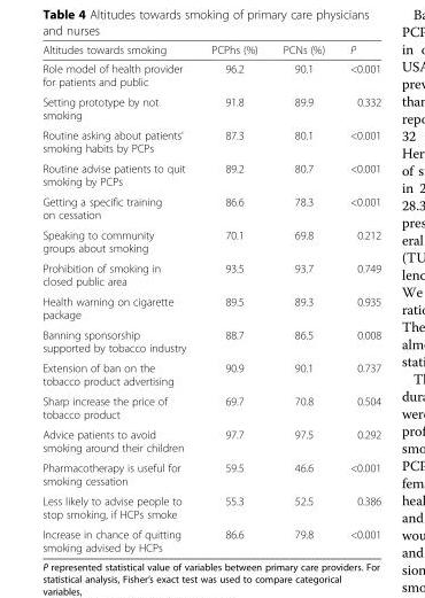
<table><thead><tr><td>Altitudes towards smoking</td><td>PCPhs (%)</td><td>PCNs (%)</td><td>P</td></tr></thead><tbody><tr><td>Role model of health provider for patients and public</td><td>96.2</td><td>90.1</td><td>&lt;0.001</td></tr><tr><td>Setting prototype by not smoking</td><td>91.8</td><td>89.9</td><td>0.332</td></tr><tr><td>Routine asking about patients’ smoking habits by PCPs</td><td>87.3</td><td>80.1</td><td>&lt;0.001</td></tr><tr><td>Routine advise patients to quit smoking by PCPs</td><td>89.2</td><td>80.7</td><td>&lt;0.001</td></tr><tr><td>Getting a specific training on cessation</td><td>86.6</td><td>78.3</td><td>&lt;0.001</td></tr><tr><td>Speaking to community groups about smoking</td><td>70.1</td><td>69.8</td><td>0.212</td></tr><tr><td>Prohibition of smoking in closed public area</td><td>93.5</td><td>93.7</td><td>0.749</td></tr><tr><td>Health warning on cigarette package</td><td>89.5</td><td>89.3</td><td>0.935</td></tr><tr><td>Banning sponsorship supported by tobacco industry</td><td>88.7</td><td>86.5</td><td>0.008</td></tr><tr><td>Extension of ban on the tobacco product advertising</td><td>90.9</td><td>90.1</td><td>0.737</td></tr><tr><td>Sharp increase the price of tobacco product</td><td>69.7</td><td>70.8</td><td>0.504</td></tr><tr><td>Advice patients to avoid smoking around their children</td><td>97.7</td><td>97.5</td><td>0.292</td></tr><tr><td>Pharmacotherapy is useful for smoking cessation</td><td>59.5</td><td>46.6</td><td>&lt;0.001</td></tr><tr><td>Less likely to advise people to stop smoking, if HCPs smoke</td><td>55.3</td><td>52.5</td><td>0.386</td></tr><tr><td>Increase in chance of quitting smoking advised by HCPs</td><td>86.6</td><td>79.8</td><td>&lt;0.001</td></tr></tbody></table>